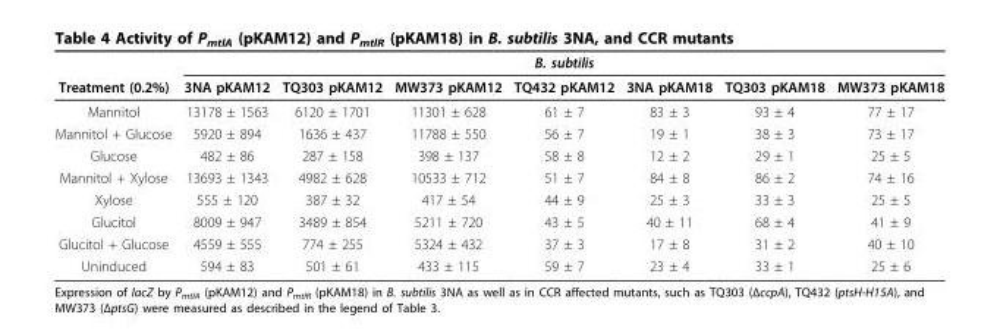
<table><thead><tr><td rowspan="2">Treatment (0.2%)</td><td colspan="7">B. subtilis</td></tr><tr><td>3NA pKAM12</td><td>TQ303 pKAM12</td><td>MW373 pKAM12</td><td>TQ432 pKAM12</td><td>3NA pKAM18</td><td>TQ303 pKAM18</td><td>MW373 pKAM18</td></tr></thead><tbody><tr><td>Mannitol</td><td>13178 ± 1563</td><td>6120 ± 1701</td><td>11301 ± 628</td><td>61 ± 7</td><td>83 ± 3</td><td>93 ± 4</td><td>77 ± 17</td></tr><tr><td>Mannitol + Glucose</td><td>5920 ± 894</td><td>1636 ± 437</td><td>11788 ± 550</td><td>56 ± 7</td><td>19 ± 1</td><td>38 ± 3</td><td>73 ± 17</td></tr><tr><td>Glucose</td><td>482 ± 86</td><td>287 ± 158</td><td>398 ± 137</td><td>58 ± 8</td><td>12 ± 2</td><td>29 ± 1</td><td>25 ± 5</td></tr><tr><td>Mannitol + Xylose</td><td>13693 ± 1343</td><td>4982 ± 628</td><td>10533 ± 712</td><td>51 ± 7</td><td>84 ± 8</td><td>86 ± 2</td><td>74 ± 16</td></tr><tr><td>Xylose</td><td>555 ± 120</td><td>387 ± 32</td><td>417 ± 54</td><td>44 ± 9</td><td>25 ± 3</td><td>33 ± 3</td><td>25 ± 5</td></tr><tr><td>Glucitol</td><td>8009 ± 947</td><td>3489 ± 854</td><td>5211 ± 720</td><td>43 ± 5</td><td>40 ± 11</td><td>68 ± 4</td><td>41 ± 9</td></tr><tr><td>Glucitol + Glucose</td><td>4559 ± 555</td><td>774 ± 255</td><td>5324 ± 432</td><td>37 ± 3</td><td>17 ± 8</td><td>31 ± 2</td><td>40 ± 10</td></tr><tr><td>Uninduced</td><td>594 ± 83</td><td>501 ± 61</td><td>433 ± 115</td><td>59 ± 7</td><td>23 ± 4</td><td>33 ± 1</td><td>25 ± 6</td></tr></tbody></table>